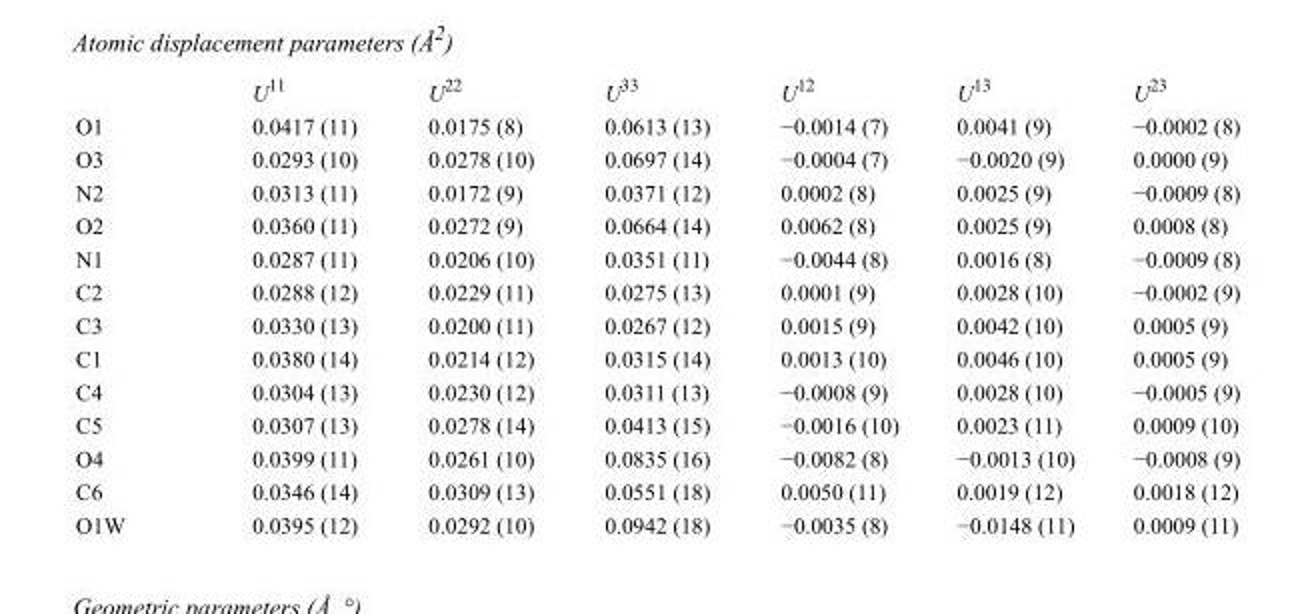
<table><thead><tr><td></td><td>U<sup>11</sup></td><td>U<sup>22</sup></td><td>U<sup>33</sup></td><td>U<sup>12</sup></td><td>U<sup>13</sup></td><td>U<sup>23</sup></td></tr></thead><tbody><tr><td>O1</td><td>0.0417 (11)</td><td>0.0175 (8)</td><td>0.0613 (13)</td><td>−0.0014 (7)</td><td>0.0041 (9)</td><td>−0.0002 (8)</td></tr><tr><td>O3</td><td>0.0293 (10)</td><td>0.0278 (10)</td><td>0.0697 (14)</td><td>−0.0004 (7)</td><td>−0.0020 (9)</td><td>0.0000 (9)</td></tr><tr><td>N2</td><td>0.0313 (11)</td><td>0.0172 (9)</td><td>0.0371 (12)</td><td>0.0002 (8)</td><td>0.0025 (9)</td><td>−0.0009 (8)</td></tr><tr><td>O2</td><td>0.0360 (11)</td><td>0.0272 (9)</td><td>0.0664 (14)</td><td>0.0062 (8)</td><td>0.0025 (9)</td><td>0.0008 (8)</td></tr><tr><td>N1</td><td>0.0287 (11)</td><td>0.0206 (10)</td><td>0.0351 (11)</td><td>−0.0044 (8)</td><td>0.0016 (8)</td><td>−0.0009 (8)</td></tr><tr><td>C2</td><td>0.0288 (12)</td><td>0.0229 (11)</td><td>0.0275 (13)</td><td>0.0001 (9)</td><td>0.0028 (10)</td><td>−0.0002 (9)</td></tr><tr><td>C3</td><td>0.0330 (13)</td><td>0.0200 (11)</td><td>0.0267 (12)</td><td>0.0015 (9)</td><td>0.0042 (10)</td><td>0.0005 (9)</td></tr><tr><td>C1</td><td>0.0380 (14)</td><td>0.0214 (12)</td><td>0.0315 (14)</td><td>0.0013 (10)</td><td>0.0046 (10)</td><td>0.0005 (9)</td></tr><tr><td>C4</td><td>0.0304 (13)</td><td>0.0230 (12)</td><td>0.0311 (13)</td><td>−0.0008 (9)</td><td>0.0028 (10)</td><td>−0.0005 (9)</td></tr><tr><td>C5</td><td>0.0307 (13)</td><td>0.0278 (14)</td><td>0.0413 (15)</td><td>−0.0016 (10)</td><td>0.0023 (11)</td><td>0.0009 (10)</td></tr><tr><td>O4</td><td>0.0399 (11)</td><td>0.0261 (10)</td><td>0.0835 (16)</td><td>−0.0082 (8)</td><td>−0.0013 (10)</td><td>−0.0008 (9)</td></tr><tr><td>C6</td><td>0.0346 (14)</td><td>0.0309 (13)</td><td>0.0551 (18)</td><td>0.0050 (11)</td><td>0.0019 (12)</td><td>0.0018 (12)</td></tr><tr><td>O1W</td><td>0.0395 (12)</td><td>0.0292 (10)</td><td>0.0942 (18)</td><td>−0.0035 (8)</td><td>−0.0148 (11)</td><td>0.0009 (11)</td></tr></tbody></table>